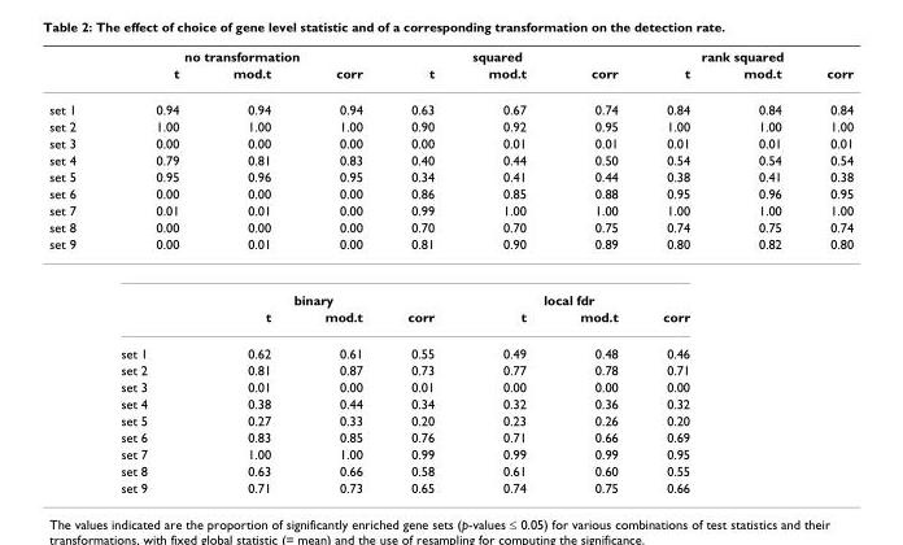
<table><thead><tr><td rowspan="2"></td><td colspan="3">no transformation</td><td colspan="3">squared</td><td colspan="3">rank squared</td></tr><tr><td>t</td><td>mod.t</td><td>corr</td><td>t</td><td>mod.t</td><td>corr</td><td>t</td><td>mod.t</td><td>corr</td></tr></thead><tbody><tr><td>set 1</td><td>0.94</td><td>0.94</td><td>0.94</td><td>0.63</td><td>0.67</td><td>0.74</td><td>0.84</td><td>0.84</td><td>0.84</td></tr><tr><td>set 2</td><td>1.00</td><td>1.00</td><td>1.00</td><td>0.90</td><td>0.92</td><td>0.95</td><td>1.00</td><td>1.00</td><td>1.00</td></tr><tr><td>set 3</td><td>0.00</td><td>0.00</td><td>0.00</td><td>0.00</td><td>0.01</td><td>0.01</td><td>0.01</td><td>0.01</td><td>0.01</td></tr><tr><td>set 4</td><td>0.79</td><td>0.81</td><td>0.83</td><td>0.40</td><td>0.44</td><td>0.50</td><td>0.54</td><td>0.54</td><td>0.54</td></tr><tr><td>set 5</td><td>0.95</td><td>0.96</td><td>0.95</td><td>0.34</td><td>0.41</td><td>0.44</td><td>0.38</td><td>0.41</td><td>0.38</td></tr><tr><td>set 6</td><td>0.00</td><td>0.00</td><td>0.00</td><td>0.86</td><td>0.85</td><td>0.88</td><td>0.95</td><td>0.96</td><td>0.95</td></tr><tr><td>set 7</td><td>0.01</td><td>0.01</td><td>0.00</td><td>0.99</td><td>1.00</td><td>1.00</td><td>1.00</td><td>1.00</td><td>1.00</td></tr><tr><td>set 8</td><td>0.00</td><td>0.00</td><td>0.00</td><td>0.70</td><td>0.70</td><td>0.75</td><td>0.74</td><td>0.75</td><td>0.74</td></tr><tr><td rowspan="12">set 9</td><td>0.00</td><td>0.01</td><td>0.00</td><td>0.81</td><td>0.90</td><td>0.89</td><td>0.80</td><td>0.82</td><td>0.80</td></tr><tr><td></td><td colspan="3">binary</td><td colspan="3">local fdr</td><td></td><td></td></tr><tr><td></td><td>t</td><td>mod.t</td><td>corr</td><td>t</td><td>mod.t</td><td>corr</td><td></td><td></td></tr><tr><td>set 1</td><td>0.62</td><td>0.61</td><td>0.55</td><td>0.49</td><td>0.48</td><td>0.46</td><td></td><td></td></tr><tr><td>set 2</td><td>0.81</td><td>0.87</td><td>0.73</td><td>0.77</td><td>0.78</td><td>0.71</td><td></td><td></td></tr><tr><td>set 3</td><td>0.01</td><td>0.00</td><td>0.01</td><td>0.00</td><td>0.00</td><td>0.00</td><td></td><td></td></tr><tr><td>set 4</td><td>0.38</td><td>0.44</td><td>0.34</td><td>0.32</td><td>0.36</td><td>0.32</td><td></td><td></td></tr><tr><td>set 5</td><td>0.27</td><td>0.33</td><td>0.20</td><td>0.23</td><td>0.26</td><td>0.20</td><td></td><td></td></tr><tr><td>set 6</td><td>0.83</td><td>0.85</td><td>0.76</td><td>0.71</td><td>0.66</td><td>0.69</td><td></td><td></td></tr><tr><td>set 7</td><td>1.00</td><td>1.00</td><td>0.99</td><td>0.99</td><td>0.99</td><td>0.95</td><td></td><td></td></tr><tr><td>set 8</td><td>0.63</td><td>0.66</td><td>0.58</td><td>0.61</td><td>0.60</td><td>0.55</td><td></td><td></td></tr><tr><td>set 9</td><td>0.71</td><td>0.73</td><td>0.65</td><td>0.74</td><td>0.75</td><td>0.66</td><td></td><td></td></tr></tbody></table>